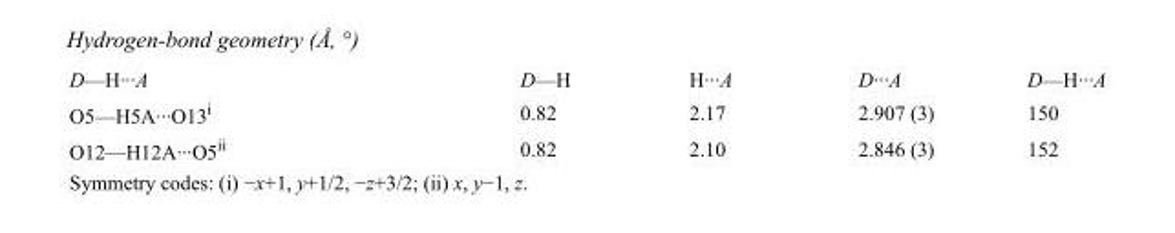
<table><tbody><tr><td>D—H···A</td><td>D—H</td><td>H···A</td><td>D···A</td><td>D—H···A</td></tr><tr><td>O5—H5A···O13<sup>i</sup></td><td>0.82</td><td>2.17</td><td>2.907 (3)</td><td>150</td></tr><tr><td>O12—H12A···O5<sup>ii</sup></td><td>0.82</td><td>2.10</td><td>2.846 (3)</td><td>152</td></tr></tbody></table>